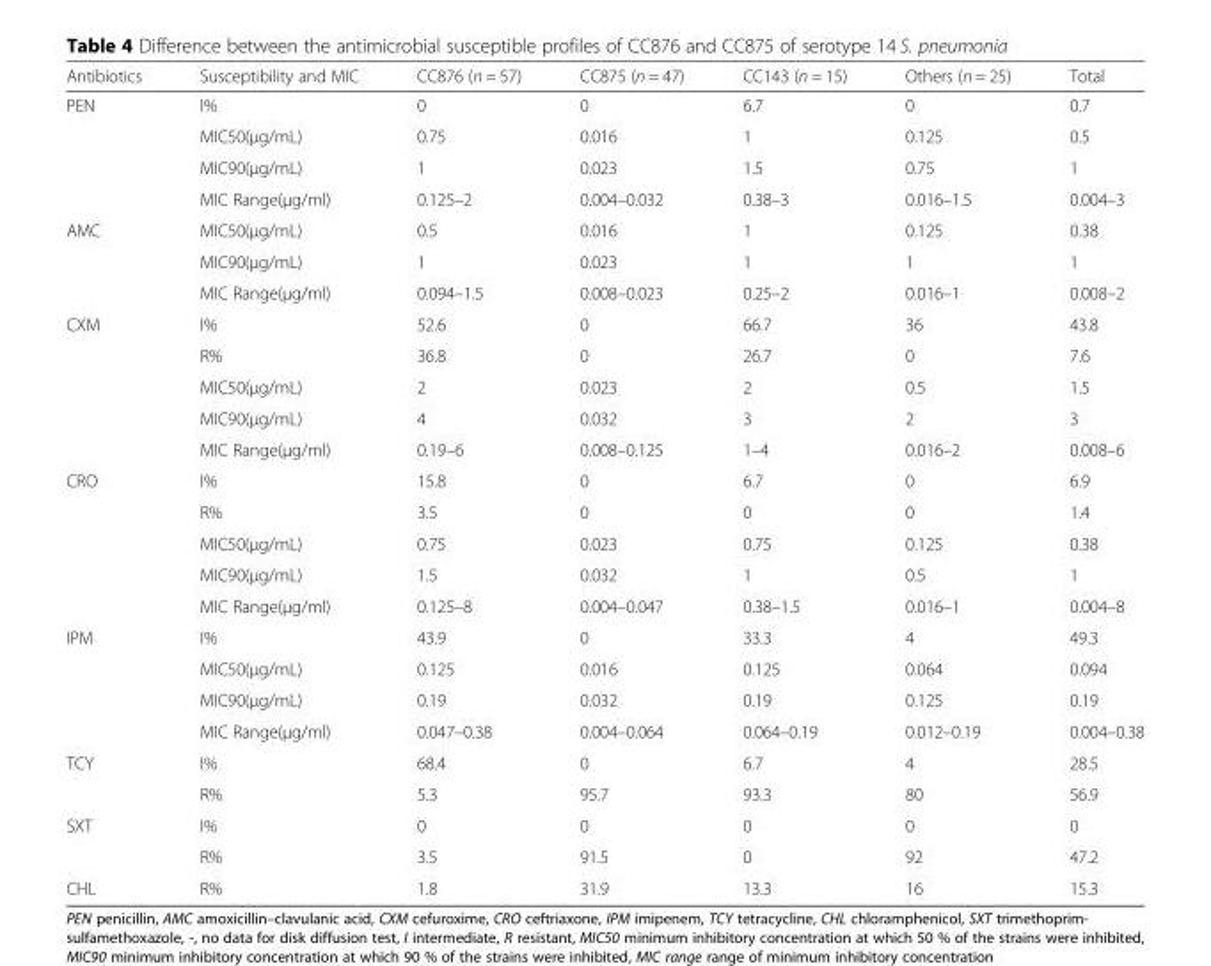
<table><thead><tr><td>Antibiotics</td><td>Susceptibility and MIC</td><td>CC876 (n = 57)</td><td>CC875 (n = 47)</td><td>CC143 (n = 15)</td><td>Others (n = 25)</td><td>Total</td></tr></thead><tbody><tr><td rowspan="4">PEN</td><td>I%</td><td>0</td><td>0</td><td>6.7</td><td>0</td><td>0.7</td></tr><tr><td>MIC50(μg/mL)</td><td>0.75</td><td>0.016</td><td>1</td><td>0.125</td><td>0.5</td></tr><tr><td>MIC90(μg/mL)</td><td>1</td><td>0.023</td><td>1.5</td><td>0.75</td><td>1</td></tr><tr><td>MIC Range(μg/ml)</td><td>0.125–2</td><td>0.004–0.032</td><td>0.38–3</td><td>0.016–1.5</td><td>0.004–3</td></tr><tr><td rowspan="3">AMC</td><td>MIC50(μg/mL)</td><td>0.5</td><td>0.016</td><td>1</td><td>0.125</td><td>0.38</td></tr><tr><td>MIC90(μg/mL)</td><td>1</td><td>0.023</td><td>1</td><td>1</td><td>1</td></tr><tr><td>MIC Range(μg/ml)</td><td>0.094–1.5</td><td>0.008–0.023</td><td>0.25–2</td><td>0.016–1</td><td>0.008–2</td></tr><tr><td rowspan="5">CXM</td><td>I%</td><td>52.6</td><td>0</td><td>66.7</td><td>36</td><td>43.8</td></tr><tr><td>R%</td><td>36.8</td><td>0</td><td>26.7</td><td>0</td><td>7.6</td></tr><tr><td>MIC50(μg/mL)</td><td>2</td><td>0.023</td><td>2</td><td>0.5</td><td>1.5</td></tr><tr><td>MIC90(μg/mL)</td><td>4</td><td>0.032</td><td>3</td><td>2</td><td>3</td></tr><tr><td>MIC Range(μg/ml)</td><td>0.19–6</td><td>0.008–0.125</td><td>1–4</td><td>0.016–2</td><td>0.008–6</td></tr><tr><td rowspan="5">CRO</td><td>I%</td><td>15.8</td><td>0</td><td>6.7</td><td>0</td><td>6.9</td></tr><tr><td>R%</td><td>3.5</td><td>0</td><td>0</td><td>0</td><td>1.4</td></tr><tr><td>MIC50(μg/mL)</td><td>0.75</td><td>0.023</td><td>0.75</td><td>0.125</td><td>0.38</td></tr><tr><td>MIC90(μg/mL)</td><td>1.5</td><td>0.032</td><td>1</td><td>0.5</td><td>1</td></tr><tr><td>MIC Range(μg/ml)</td><td>0.125–8</td><td>0.004–0.047</td><td>0.38–1.5</td><td>0.016–1</td><td>0.004–8</td></tr><tr><td rowspan="4">IPM</td><td>I%</td><td>43.9</td><td>0</td><td>33.3</td><td>4</td><td>49.3</td></tr><tr><td>MIC50(μg/mL)</td><td>0.125</td><td>0.016</td><td>0.125</td><td>0.064</td><td>0.094</td></tr><tr><td>MIC90(μg/mL)</td><td>0.19</td><td>0.032</td><td>0.19</td><td>0.125</td><td>0.19</td></tr><tr><td>MIC Range(μg/ml)</td><td>0.047–0.38</td><td>0.004–0.064</td><td>0.064–0.19</td><td>0.012–0.19</td><td>0.004–0.38</td></tr><tr><td rowspan="2">TCY</td><td>I%</td><td>68.4</td><td>0</td><td>6.7</td><td>4</td><td>28.5</td></tr><tr><td>R%</td><td>5.3</td><td>95.7</td><td>93.3</td><td>80</td><td>56.9</td></tr><tr><td rowspan="2">SXT</td><td>I%</td><td>0</td><td>0</td><td>0</td><td>0</td><td>0</td></tr><tr><td>R%</td><td>3.5</td><td>91.5</td><td>0</td><td>92</td><td>47.2</td></tr><tr><td>CHL</td><td>R%</td><td>1.8</td><td>31.9</td><td>13.3</td><td>16</td><td>15.3</td></tr></tbody></table>